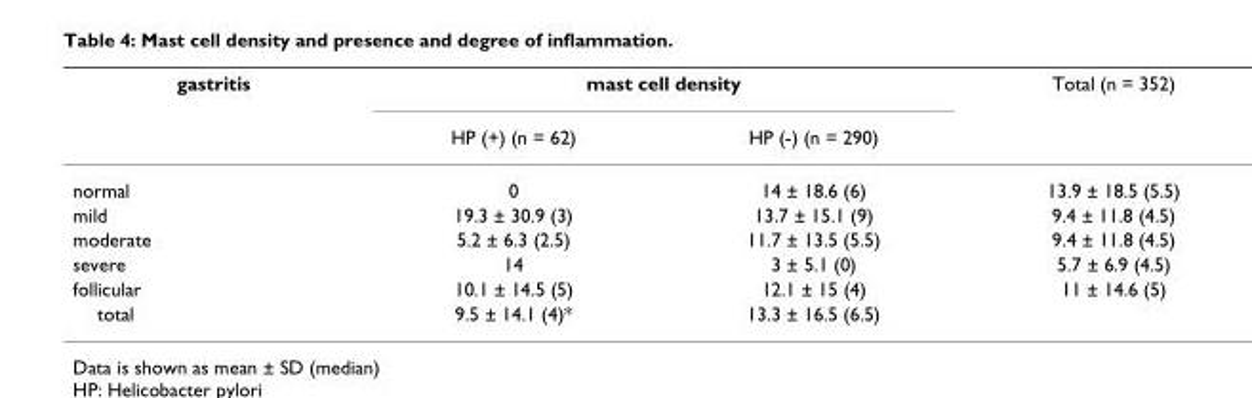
<table><thead><tr><td rowspan="2">gastritis</td><td colspan="2">mast cell density</td><td rowspan="2">Total (n = 352)</td></tr><tr><td>HP (+) (n = 62)</td><td>HP (-) (n = 290)</td></tr></thead><tbody><tr><td>normal</td><td>0</td><td>14 ± 18.6 (6)</td><td>13.9 ± 18.5 (5.5)</td></tr><tr><td>mild</td><td>19.3 ± 30.9 (3)</td><td>13.7 ± 15.1 (9)</td><td>9.4 ± 11.8 (4.5)</td></tr><tr><td>moderate</td><td>5.2 ± 6.3 (2.5)</td><td>11.7 ± 13.5 (5.5)</td><td>9.4 ± 11.8 (4.5)</td></tr><tr><td>severe</td><td>14</td><td>3 ± 5.1 (0)</td><td>5.7 ± 6.9 (4.5)</td></tr><tr><td>follicular</td><td>10.1 ± 14.5 (5)</td><td>12.1 ± 15 (4)</td><td>11 ± 14.6 (5)</td></tr><tr><td>total</td><td>9.5 ± 14.1 (4)*</td><td>13.3 ± 16.5 (6.5)</td><td></td></tr></tbody></table>